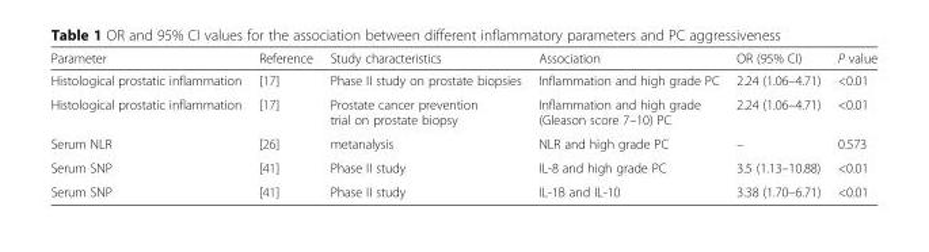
<table><thead><tr><td>Parameter</td><td>Reference</td><td>Study characteristics</td><td>Association</td><td>OR (95% CI)</td><td>P value</td></tr></thead><tbody><tr><td>Histological prostatic inflammation</td><td>[17]</td><td>Phase II study on prostate biopsies</td><td>Inflammation and high grade PC</td><td>2.24 (1.06–4.71)</td><td>&lt;0.01</td></tr><tr><td>Histological prostatic inflammation</td><td>[17]</td><td>Prostate cancer prevention trial on prostate biopsy</td><td>Inflammation and high grade (Gleason score 7–10) PC</td><td>2.24 (1.06–4.71)</td><td>&lt;0.01</td></tr><tr><td>Serum NLR</td><td>[26]</td><td>metanalysis</td><td>NLR and high grade PC</td><td>–</td><td>0.573</td></tr><tr><td>Serum SNP</td><td>[41]</td><td>Phase II study</td><td>IL-8 and high grade PC</td><td>3.5 (1.13–10.88)</td><td>&lt;0.01</td></tr><tr><td>Serum SNP</td><td>[41]</td><td>Phase II study</td><td>IL-1B and IL-10</td><td>3.38 (1.70–6.71)</td><td>&lt;0.01</td></tr></tbody></table>